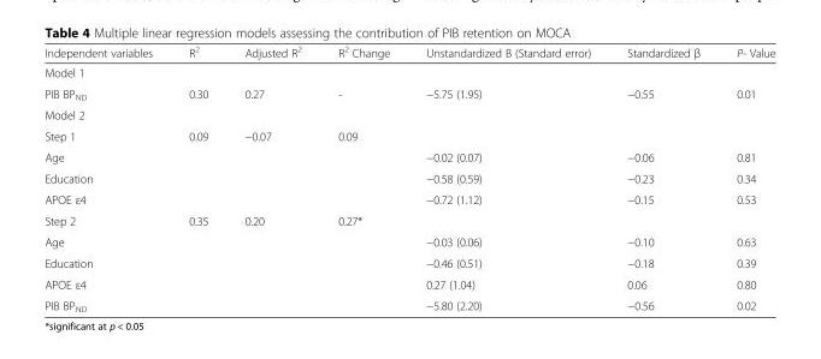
<table><thead><tr><td>Independent variables</td><td>R<sup>2</sup></td><td>Adjusted R<sup>2</sup></td><td>R<sup>2</sup> Change</td><td>Unstandardized B (Standard error)</td><td>Standardized β</td><td>P- Value</td></tr></thead><tbody><tr><td colspan="7">Model 1</td></tr><tr><td>PIB BP<sub>ND</sub></td><td>0.30</td><td>0.27</td><td>-</td><td>−5.75 (1.95)</td><td>−0.55</td><td>0.01</td></tr><tr><td colspan="7">Model 2</td></tr><tr><td>Step 1</td><td>0.09</td><td>−0.07</td><td>0.09</td><td></td><td></td><td></td></tr><tr><td>Age</td><td></td><td></td><td></td><td>−0.02 (0.07)</td><td>−0.06</td><td>0.81</td></tr><tr><td>Education</td><td></td><td></td><td></td><td>−0.58 (0.59)</td><td>−0.23</td><td>0.34</td></tr><tr><td>APOE ε4</td><td></td><td></td><td></td><td>−0.72 (1.12)</td><td>−0.15</td><td>0.53</td></tr><tr><td>Step 2</td><td>0.35</td><td>0.20</td><td>0.27*</td><td></td><td></td><td></td></tr><tr><td>Age</td><td></td><td></td><td></td><td>−0.03 (0.06)</td><td>−0.10</td><td>0.63</td></tr><tr><td>Education</td><td></td><td></td><td></td><td>−0.46 (0.51)</td><td>−0.18</td><td>0.39</td></tr><tr><td>APOE ε4</td><td></td><td></td><td></td><td>0.27 (1.04)</td><td>0.06</td><td>0.80</td></tr><tr><td>PIB BP<sub>ND</sub></td><td></td><td></td><td></td><td>−5.80 (2.20)</td><td>−0.56</td><td>0.02</td></tr></tbody></table>